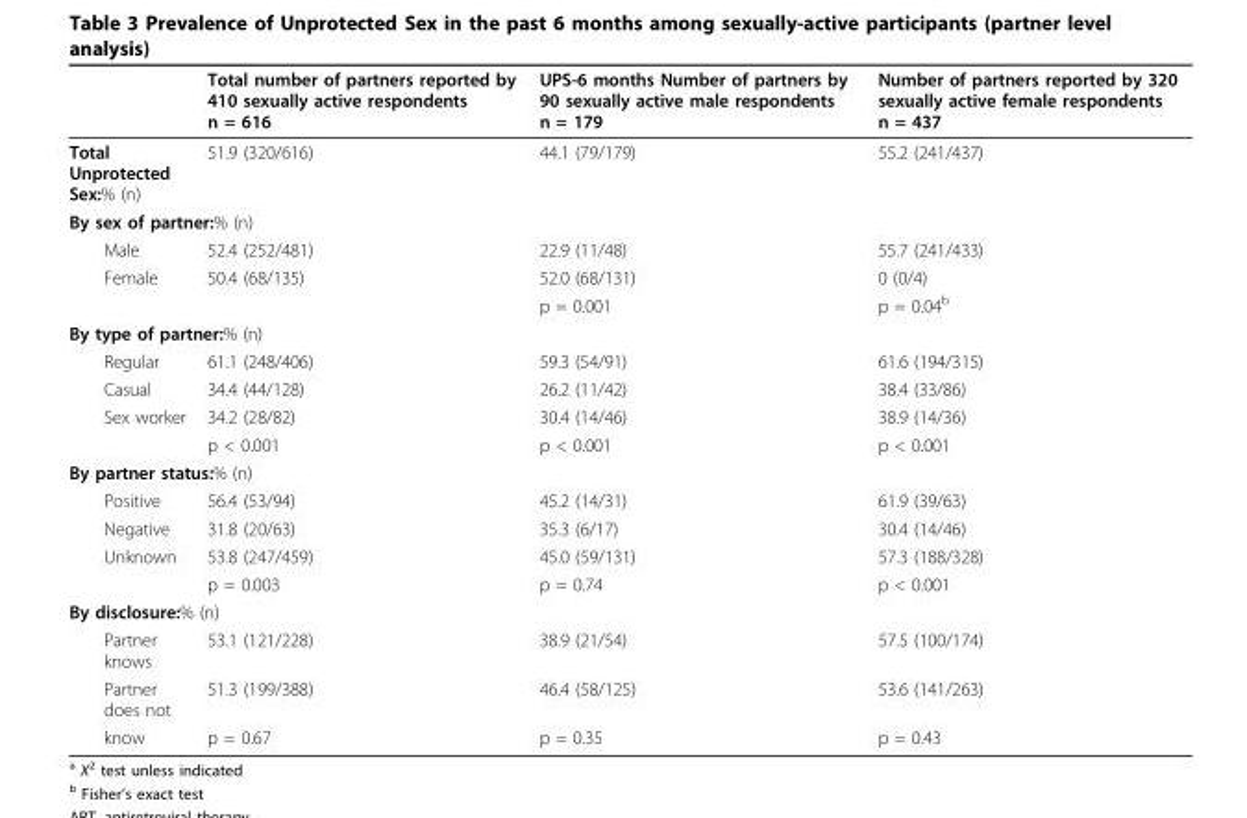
<table><thead><tr><td></td><td>Total number of partners reported by 410 sexually active respondents n = 616</td><td>UPS-6 months Number of partners by 90 sexually active male respondents n = 179</td><td>Number of partners reported by 320 sexually active female respondents n = 437</td></tr></thead><tbody><tr><td>Total Unprotected Sex:% (n)</td><td>51.9 (320/616)</td><td>44.1 (79/179)</td><td>55.2 (241/437)</td></tr><tr><td colspan="4">By sex of partner:% (n)</td></tr><tr><td>Male</td><td>52.4 (252/481)</td><td>22.9 (11/48)</td><td>55.7 (241/433)</td></tr><tr><td rowspan="2">Female</td><td>50.4 (68/135)</td><td>52.0 (68/131)</td><td>0 (0/4)</td></tr><tr><td></td><td>p = 0.001</td><td>p = 0.04<sup>b</sup></td></tr><tr><td colspan="4">By type of partner:% (n)</td></tr><tr><td>Regular</td><td>61.1 (248/406)</td><td>59.3 (54/91)</td><td>61.6 (194/315)</td></tr><tr><td>Casual</td><td>34.4 (44/128)</td><td>26.2 (11/42)</td><td>38.4 (33/86)</td></tr><tr><td rowspan="2">Sex worker</td><td>34.2 (28/82)</td><td>30.4 (14/46)</td><td>38.9 (14/36)</td></tr><tr><td>p &lt; 0.001</td><td>p &lt; 0.001</td><td>p &lt; 0.001</td></tr><tr><td colspan="4">By partner status:% (n)</td></tr><tr><td>Positive</td><td>56.4 (53/94)</td><td>45.2 (14/31)</td><td>61.9 (39/63)</td></tr><tr><td>Negative</td><td>31.8 (20/63)</td><td>35.3 (6/17)</td><td>30.4 (14/46)</td></tr><tr><td rowspan="2">Unknown</td><td>53.8 (247/459)</td><td>45.0 (59/131)</td><td>57.3 (188/328)</td></tr><tr><td>p = 0.003</td><td>p = 0.74</td><td>p &lt; 0.001</td></tr><tr><td colspan="4">By disclosure:% (n)</td></tr><tr><td>Partner knows</td><td>53.1 (121/228)</td><td>38.9 (21/54)</td><td>57.5 (100/174)</td></tr><tr><td>Partner does not</td><td>51.3 (199/388)</td><td>46.4 (58/125)</td><td>53.6 (141/263)</td></tr><tr><td>know</td><td>p = 0.67</td><td>p = 0.35</td><td>p = 0.43</td></tr></tbody></table>